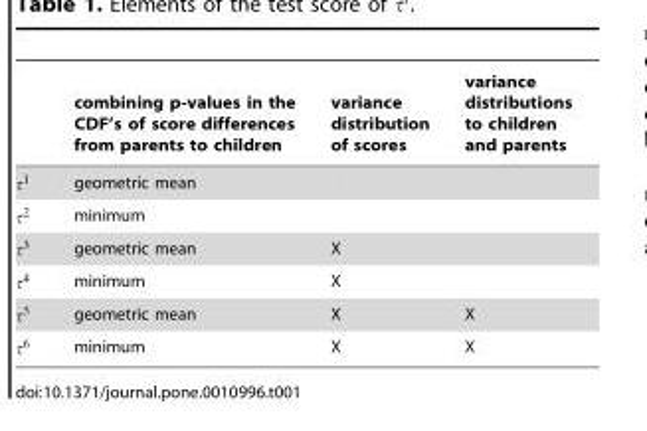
<table><thead><tr><td>combining p-values in the CDF’s of score differences from parents to children</td><td>variance distribution of scores</td><td>variance distributions to children and parents</td></tr></thead><tbody><tr><td colspan="3">geometric mean</td></tr><tr><td colspan="3">minimum</td></tr><tr><td>geometric mean</td><td>X</td><td></td></tr><tr><td>minimum</td><td>X</td><td></td></tr><tr><td>geometric mean</td><td>X</td><td>X</td></tr><tr><td>minimum</td><td>X</td><td>X</td></tr></tbody></table>